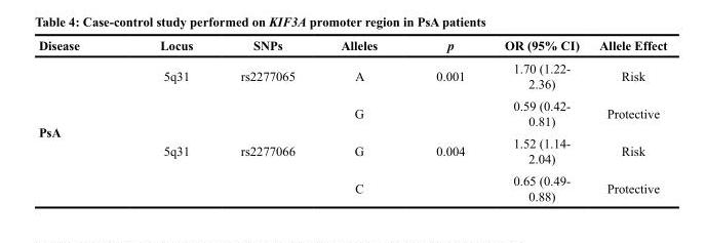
<table><thead><tr><td>Disease</td><td>Locus</td><td>SNPs</td><td>Alleles</td><td>p</td><td>OR (95% CI)</td><td>Allele Effect</td></tr></thead><tbody><tr><td rowspan="4">PsA</td><td>5q31</td><td>rs2277065</td><td>A</td><td>0.001</td><td>1.70 (1.22- 2.36)</td><td>Risk</td></tr><tr><td></td><td></td><td>G</td><td></td><td>0.59 (0.42- 0.81)</td><td>Protective</td></tr><tr><td>5q31</td><td>rs2277066</td><td>G</td><td>0.004</td><td>1.52 (1.14- 2.04)</td><td>Risk</td></tr><tr><td></td><td></td><td>C</td><td></td><td>0.65 (0.49- 0.88)</td><td>Protective</td></tr></tbody></table>